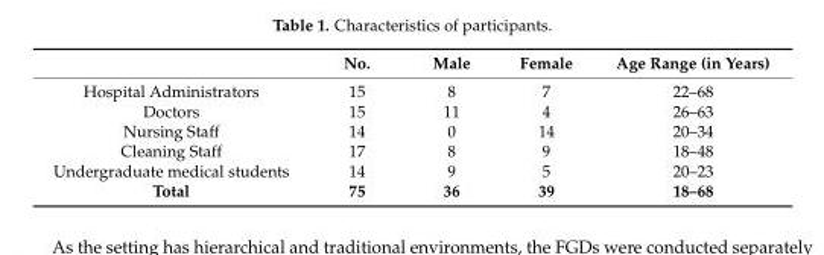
<table><thead><tr><td></td><td>No.</td><td>Male</td><td>Female</td><td>Age Range (in Years)</td></tr></thead><tbody><tr><td>Hospital Administrators</td><td>15</td><td>8</td><td>7</td><td>22–68</td></tr><tr><td>Doctors</td><td>15</td><td>11</td><td>4</td><td>26–63</td></tr><tr><td>Nursing Staff</td><td>14</td><td>0</td><td>14</td><td>20–34</td></tr><tr><td>Cleaning Staff</td><td>17</td><td>8</td><td>9</td><td>18–48</td></tr><tr><td>Undergraduate medical students</td><td>14</td><td>9</td><td>5</td><td>20–23</td></tr><tr><td>Total</td><td>75</td><td>36</td><td>39</td><td>18–68</td></tr></tbody></table>